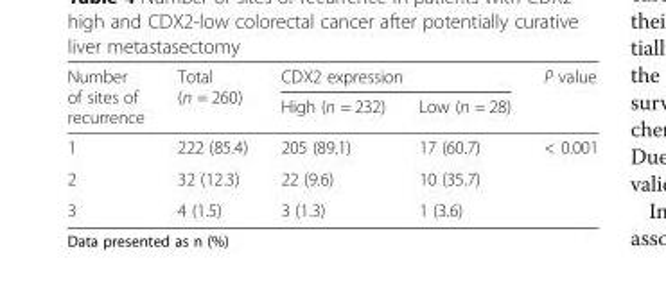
<table><thead><tr><td rowspan="2">Number of sites of recurrence</td><td rowspan="2">Total (n = 260)</td><td colspan="2">CDX2 expression</td><td rowspan="2">P value</td></tr><tr><td>High (n = 232)</td><td>Low (n = 28)</td></tr></thead><tbody><tr><td>1</td><td>222 (85.4)</td><td>205 (89.1)</td><td>17 (60.7)</td><td>&lt; 0.001</td></tr><tr><td>2</td><td>32 (12.3)</td><td>22 (9.6)</td><td>10 (35.7)</td><td></td></tr><tr><td>3</td><td>4 (1.5)</td><td>3 (1.3)</td><td>1 (3.6)</td><td></td></tr></tbody></table>